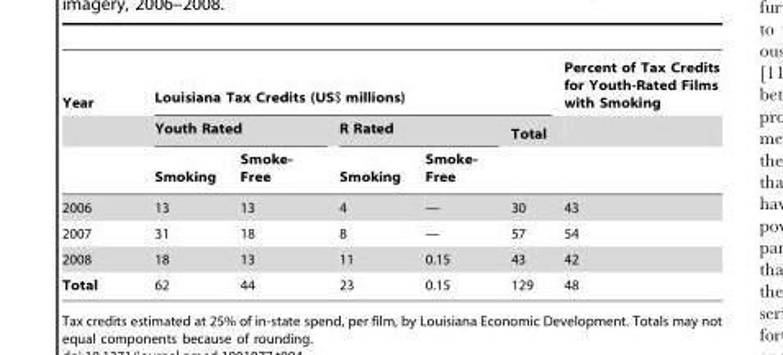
<table><thead><tr><td rowspan="3">Year</td><td colspan="5">Louisiana Tax Credits (US$ millions)</td><td rowspan="3">Percent of Tax Credits for Youth-Rated Films with Smoking</td></tr><tr><td colspan="2">Youth Rated</td><td colspan="2">R Rated</td><td rowspan="2">Total</td></tr><tr><td>Smoking</td><td>Smoke- Free</td><td>Smoking</td><td>Smoke- Free</td></tr></thead><tbody><tr><td>2006</td><td>13</td><td>13</td><td>4</td><td>—</td><td>30</td><td>43</td></tr><tr><td>2007</td><td>31</td><td>18</td><td>8</td><td>—</td><td>57</td><td>54</td></tr><tr><td>2008</td><td>18</td><td>13</td><td>11</td><td>0.15</td><td>43</td><td>42</td></tr><tr><td>Total</td><td>62</td><td>44</td><td>23</td><td>0.15</td><td>129</td><td>48</td></tr></tbody></table>